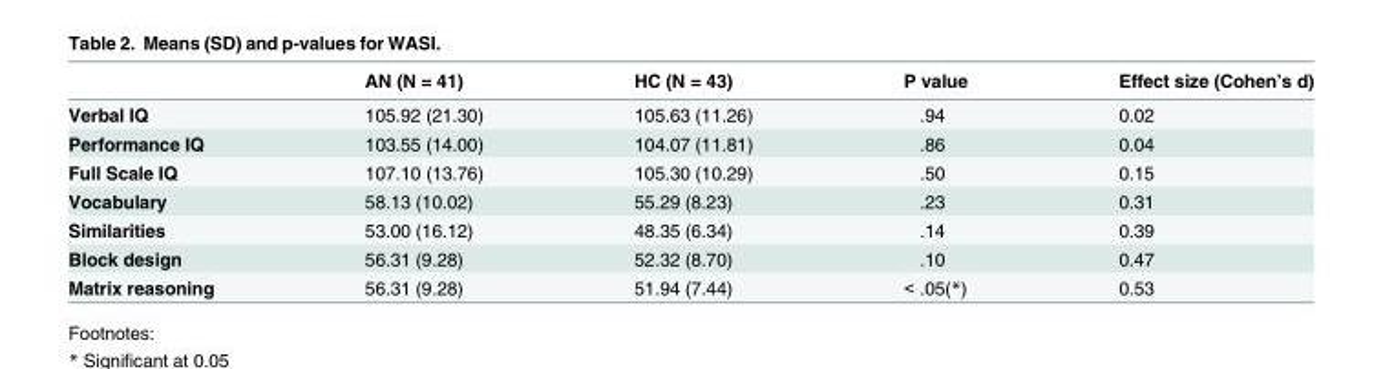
<table><thead><tr><td></td><td>AN (N = 41)</td><td>HC (N = 43)</td><td>P value</td><td>Effect size (Cohen’s d)</td></tr></thead><tbody><tr><td>Verbal IQ</td><td>105.92 (21.30)</td><td>105.63 (11.26)</td><td>.94</td><td>0.02</td></tr><tr><td>Performance IQ</td><td>103.55 (14.00)</td><td>104.07 (11.81)</td><td>.86</td><td>0.04</td></tr><tr><td>Full Scale IQ</td><td>107.10 (13.76)</td><td>105.30 (10.29)</td><td>.50</td><td>0.15</td></tr><tr><td>Vocabulary</td><td>58.13 (10.02)</td><td>55.29 (8.23)</td><td>.23</td><td>0.31</td></tr><tr><td>Similarities</td><td>53.00 (16.12)</td><td>48.35 (6.34)</td><td>.14</td><td>0.39</td></tr><tr><td>Block design</td><td>56.31 (9.28)</td><td>52.32 (8.70)</td><td>.10</td><td>0.47</td></tr><tr><td>Matrix reasoning</td><td>56.31 (9.28)</td><td>51.94 (7.44)</td><td>&lt; .05(*)</td><td>0.53</td></tr></tbody></table>